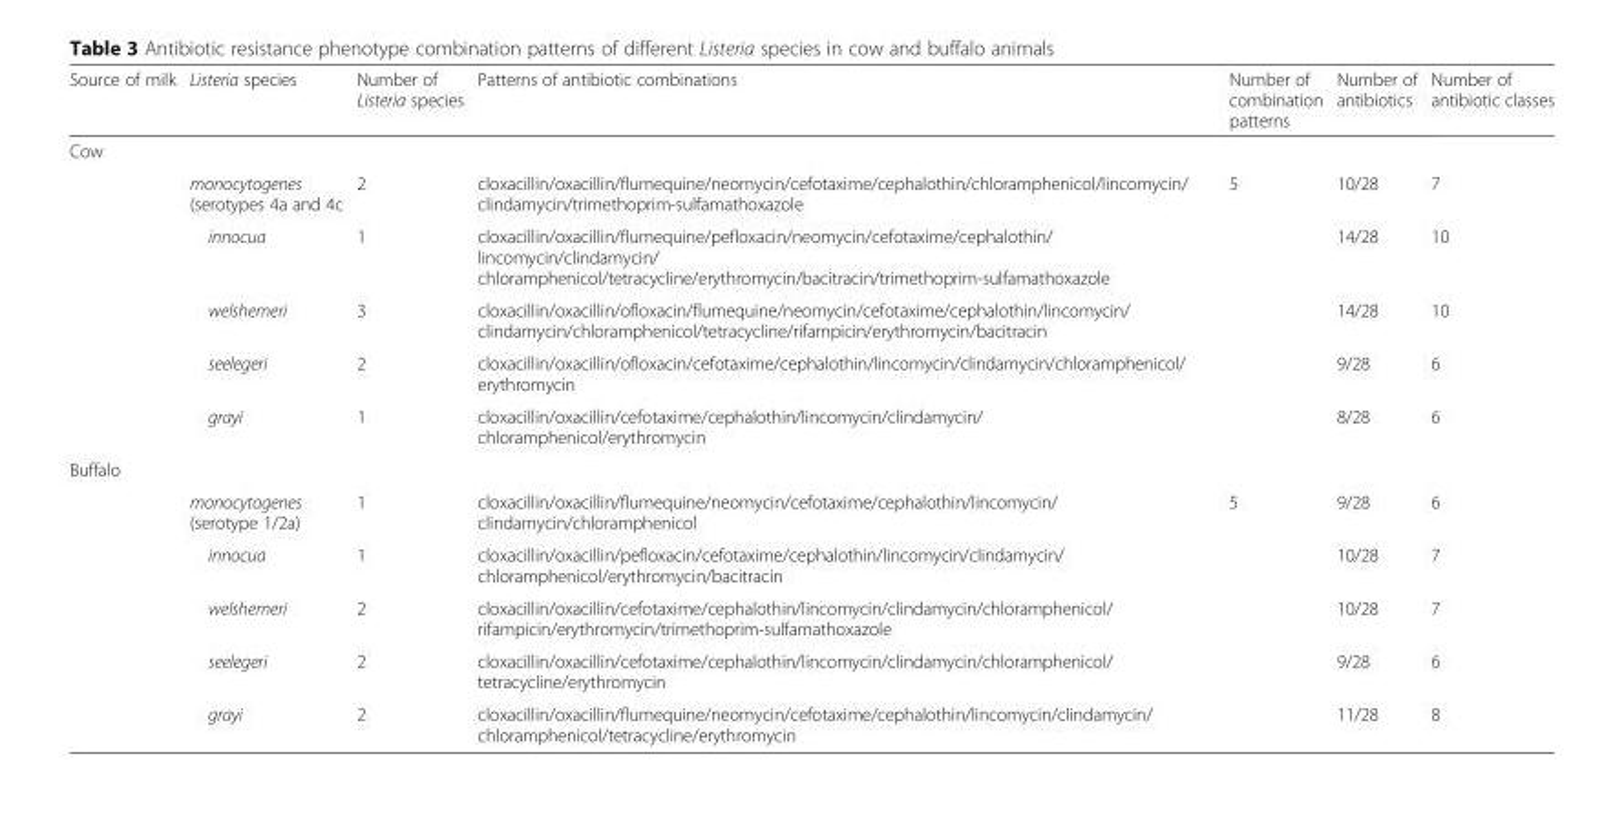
<table><thead><tr><td>Source of milk</td><td>Listeria species</td><td>Number of Listeria species</td><td>Patterns of antibiotic combinations</td><td>Number of combination patterns</td><td>Number of antibiotics</td><td>Number of antibiotic classes</td></tr></thead><tbody><tr><td colspan="7">Cow</td></tr><tr><td></td><td>monocytogenes (serotypes 4a and 4c</td><td>2</td><td>cloxacillin/oxacillin/flumequine/neomycin/cefotaxime/cephalothin/chloramphenicol/lincomycin/ clindamycin/trimethoprim-sulfamathoxazole</td><td rowspan="5">5</td><td>10/28</td><td>7</td></tr><tr><td></td><td>innocua</td><td>1</td><td>cloxacillin/oxacillin/flumequine/pefloxacin/neomycin/cefotaxime/cephalothin/ lincomycin/clindamycin/ chloramphenicol/tetracycline/erythromycin/bacitracin/trimethoprim-sulfamathoxazole</td><td>14/28</td><td>10</td></tr><tr><td></td><td>welshemeri</td><td>3</td><td>cloxacillin/oxacillin/ofloxacin/flumequine/neomycin/cefotaxime/cephalothin/lincomycin/ clindamycin/chloramphenicol/tetracycline/rifampicin/erythromycin/bacitracin</td><td>14/28</td><td>10</td></tr><tr><td></td><td>seelegeri</td><td>2</td><td>cloxacillin/oxacillin/ofloxacin/cefotaxime/cephalothin/lincomycin/clindamycin/chloramphenicol/ erythromycin</td><td>9/28</td><td>6</td></tr><tr><td></td><td>grayi</td><td>1</td><td>cloxacillin/oxacillin/cefotaxime/cephalothin/lincomycin/clindamycin/ chloramphenicol/erythromycin</td><td>8/28</td><td>6</td></tr><tr><td colspan="7">Buffalo</td></tr><tr><td></td><td>monocytogenes (serotype 1/2a)</td><td>1</td><td>cloxacillin/oxacillin/flumequine/neomycin/cefotaxime/cephalothin/lincomycin/ clindamycin/chloramphenicol</td><td rowspan="5">5</td><td>9/28</td><td>6</td></tr><tr><td></td><td>innocua</td><td>1</td><td>cloxacillin/oxacillin/pefloxacin/cefotaxime/cephalothin/lincomycin/clindamycin/ chloramphenicol/erythromycin/bacitracin</td><td>10/28</td><td>7</td></tr><tr><td></td><td>welshemeri</td><td>2</td><td>cloxacillin/oxacillin/cefotaxime/cephalothin/lincomycin/clindamycin/chloramphenicol/ rifampicin/erythromycin/trimethoprim-sulfamathoxazole</td><td>10/28</td><td>7</td></tr><tr><td></td><td>seelegeri</td><td>2</td><td>cloxacillin/oxacillin/cefotaxime/cephalothin/lincomycin/clindamycin/chloramphenicol/ tetracycline/erythromycin</td><td>9/28</td><td>6</td></tr><tr><td></td><td>grayi</td><td>2</td><td>cloxacillin/oxacillin/flumequine/neomycin/cefotaxime/cephalothin/lincomycin/clindamycin/ chloramphenicol/tetracycline/erythromycin</td><td>11/28</td><td>8</td></tr></tbody></table>